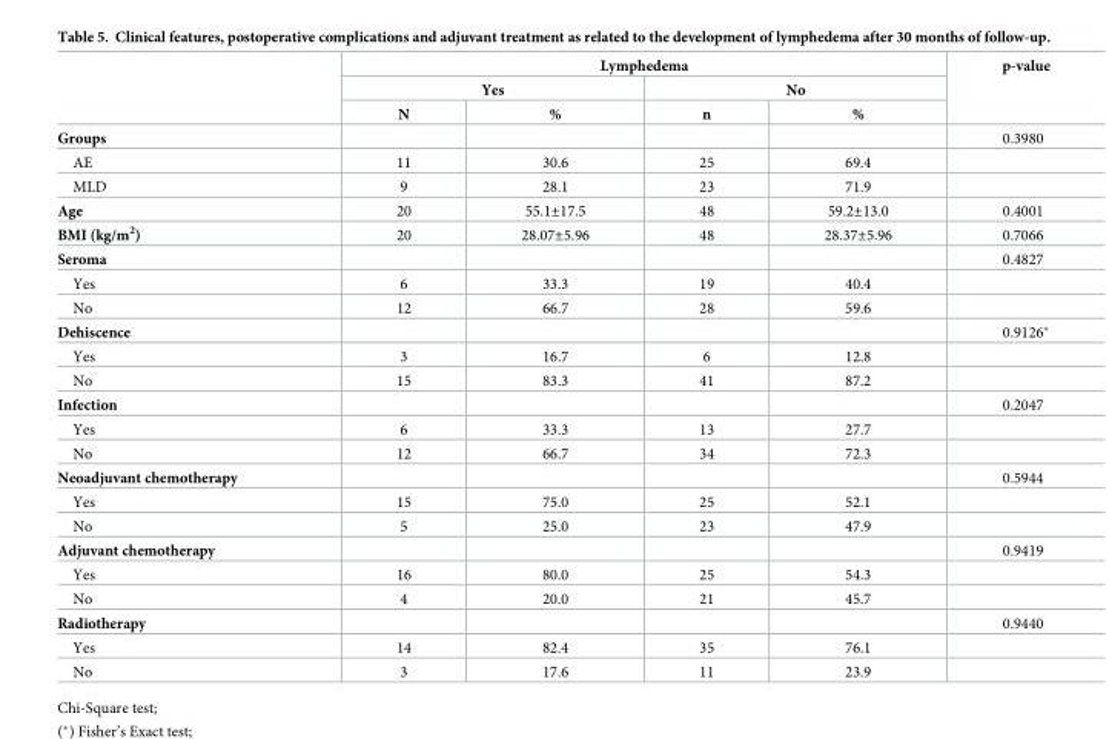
<table><thead><tr><td rowspan="3"></td><td colspan="4">Lymphedema</td><td rowspan="3">p-value</td></tr><tr><td colspan="2">Yes</td><td colspan="2">No</td></tr><tr><td>N</td><td>%</td><td>n</td><td>%</td></tr></thead><tbody><tr><td>Groups</td><td></td><td></td><td></td><td></td><td>0.3980</td></tr><tr><td>AE</td><td>11</td><td>30.6</td><td>25</td><td>69.4</td><td></td></tr><tr><td>MLD</td><td>9</td><td>28.1</td><td>23</td><td>71.9</td><td></td></tr><tr><td>Age</td><td>20</td><td>55.1±17.5</td><td>48</td><td>59.2±13.0</td><td>0.4001</td></tr><tr><td>BMI (kg/m<sup>2</sup>)</td><td>20</td><td>28.07±5.96</td><td>48</td><td>28.37±5.96</td><td>0.7066</td></tr><tr><td>Seroma</td><td></td><td></td><td></td><td></td><td>0.4827</td></tr><tr><td>Yes</td><td>6</td><td>33.3</td><td>19</td><td>40.4</td><td></td></tr><tr><td>No</td><td>12</td><td>66.7</td><td>28</td><td>59.6</td><td></td></tr><tr><td>Dehiscence</td><td></td><td></td><td></td><td></td><td>0.9126*</td></tr><tr><td>Yes</td><td>3</td><td>16.7</td><td>6</td><td>12.8</td><td></td></tr><tr><td>No</td><td>15</td><td>83.3</td><td>41</td><td>87.2</td><td></td></tr><tr><td>Infection</td><td></td><td></td><td></td><td></td><td>0.2047</td></tr><tr><td>Yes</td><td>6</td><td>33.3</td><td>13</td><td>27.7</td><td></td></tr><tr><td>No</td><td>12</td><td>66.7</td><td>34</td><td>72.3</td><td></td></tr><tr><td>Neoadjuvant chemotherapy</td><td></td><td></td><td></td><td></td><td>0.5944</td></tr><tr><td>Yes</td><td>15</td><td>75.0</td><td>25</td><td>52.1</td><td></td></tr><tr><td>No</td><td>5</td><td>25.0</td><td>23</td><td>47.9</td><td></td></tr><tr><td>Adjuvant chemotherapy</td><td></td><td></td><td></td><td></td><td>0.9419</td></tr><tr><td>Yes</td><td>16</td><td>80.0</td><td>25</td><td>54.3</td><td></td></tr><tr><td>No</td><td>4</td><td>20.0</td><td>21</td><td>45.7</td><td></td></tr><tr><td>Radiotherapy</td><td></td><td></td><td></td><td></td><td>0.9440</td></tr><tr><td>Yes</td><td>14</td><td>82.4</td><td>35</td><td>76.1</td><td></td></tr><tr><td>No</td><td>3</td><td>17.6</td><td>11</td><td>23.9</td><td></td></tr></tbody></table>